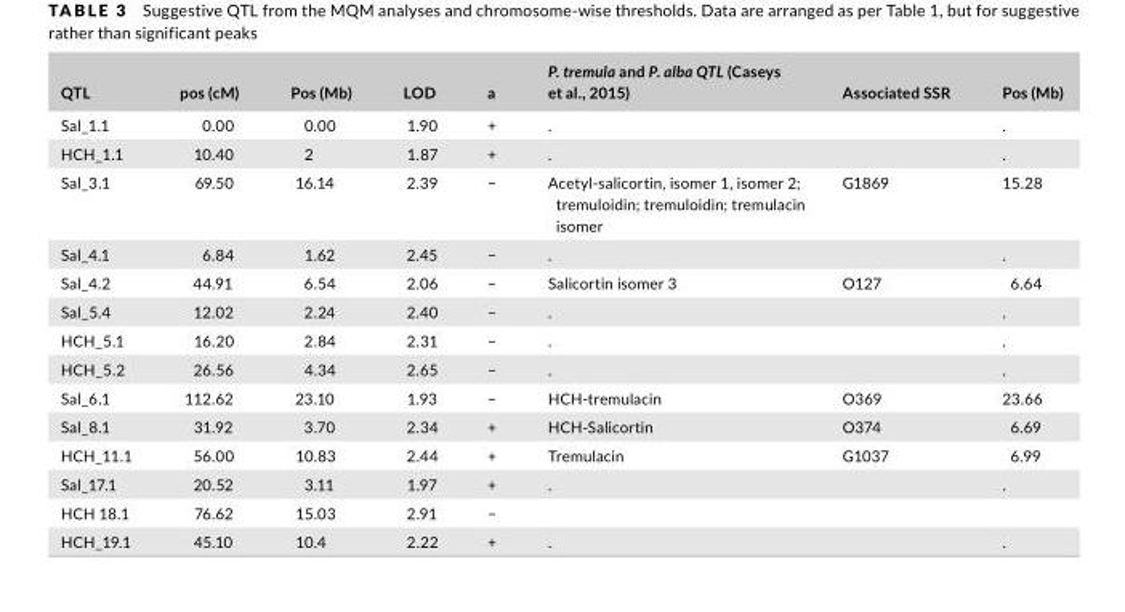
<table><thead><tr><td>QTL</td><td>pos (cM)</td><td>Pos (Mb)</td><td>LOD</td><td>a</td><td>P. tremula and P. alba QTL (Caseys et al., 2015)</td><td>Associated SSR</td><td>Pos (Mb)</td></tr></thead><tbody><tr><td>Sal_1.1</td><td>0.00</td><td>0.00</td><td>1.90</td><td>+</td><td>.</td><td></td><td>.</td></tr><tr><td>HCH_1.1</td><td>10.40</td><td>2</td><td>1.87</td><td>+</td><td>.</td><td></td><td>.</td></tr><tr><td>Sal_3.1</td><td>69.50</td><td>16.14</td><td>2.39</td><td>−</td><td>Acetyl- salicortin, isomer 1, isomer 2; tremuloidin; tremuloidin; tremulacin isomer</td><td>G1869</td><td>15.28</td></tr><tr><td>Sal_4.1</td><td>6.84</td><td>1.62</td><td>2.45</td><td>−</td><td>.</td><td></td><td>.</td></tr><tr><td>Sal_4.2</td><td>44.91</td><td>6.54</td><td>2.06</td><td>−</td><td>Salicortin isomer 3</td><td>O127</td><td>6.64</td></tr><tr><td>Sal_5.4</td><td>12.02</td><td>2.24</td><td>2.40</td><td>−</td><td>.</td><td></td><td>.</td></tr><tr><td>HCH_5.1</td><td>16.20</td><td>2.84</td><td>2.31</td><td>−</td><td>.</td><td></td><td>.</td></tr><tr><td>HCH_5.2</td><td>26.56</td><td>4.34</td><td>2.65</td><td>−</td><td>.</td><td></td><td>.</td></tr><tr><td>Sal_6.1</td><td>112.62</td><td>23.10</td><td>1.93</td><td>−</td><td>HCH- tremulacin</td><td>O369</td><td>23.66</td></tr><tr><td>Sal_8.1</td><td>31.92</td><td>3.70</td><td>2.34</td><td>+</td><td>HCH- Salicortin</td><td>O374</td><td>6.69</td></tr><tr><td>HCH_11.1</td><td>56.00</td><td>10.83</td><td>2.44</td><td>+</td><td>Tremulacin</td><td>G1037</td><td>6.99</td></tr><tr><td>Sal_17.1</td><td>20.52</td><td>3.11</td><td>1.97</td><td>+</td><td>.</td><td></td><td>.</td></tr><tr><td>HCH 18.1</td><td>76.62</td><td>15.03</td><td>2.91</td><td>−</td><td></td><td></td><td></td></tr><tr><td>HCH_19.1</td><td>45.10</td><td>10.4</td><td>2.22</td><td>+</td><td>.</td><td></td><td>.</td></tr></tbody></table>